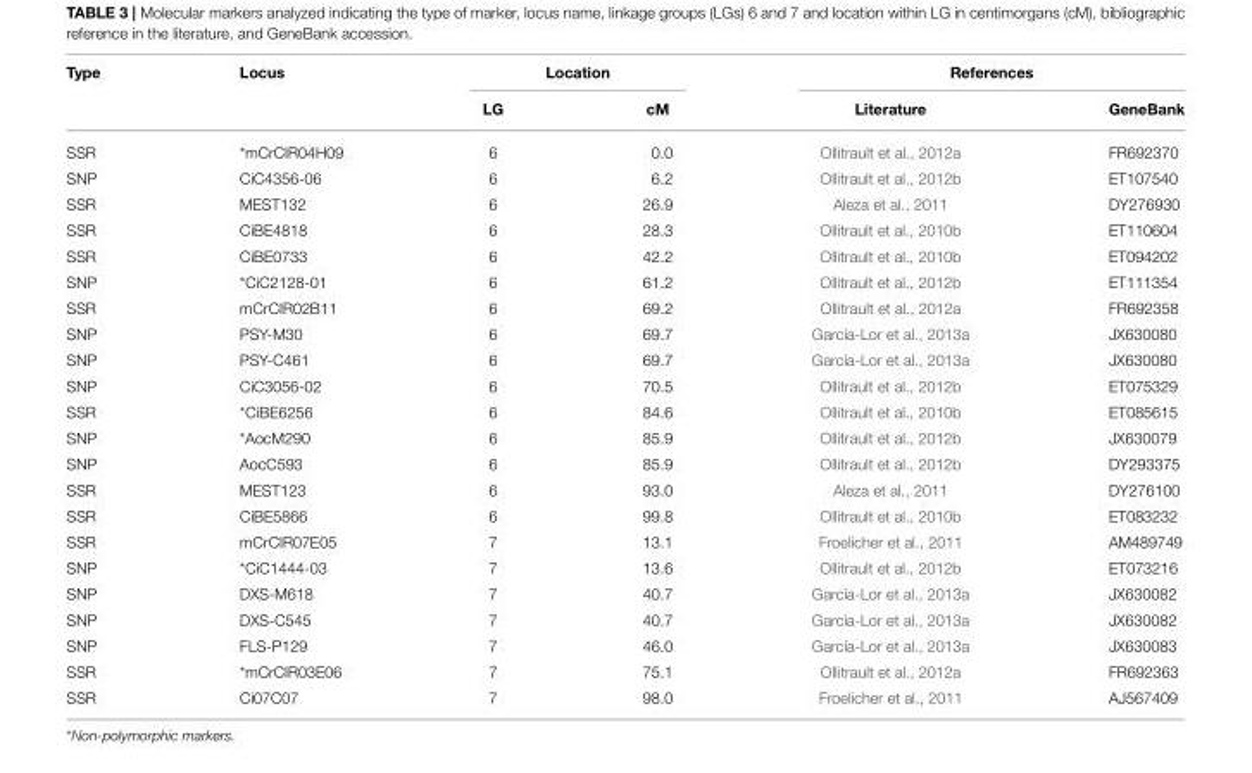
<table><thead><tr><td rowspan="2">Type</td><td rowspan="2">Locus</td><td colspan="2">Location</td><td colspan="2">References</td></tr><tr><td>LG</td><td>cM</td><td>Literature</td><td>GeneBank</td></tr></thead><tbody><tr><td>SSR</td><td>*mCrCIR04H09</td><td>6</td><td>0.0</td><td>Ollitrault et al., 2012a</td><td>FR692370</td></tr><tr><td>SNP</td><td>CiC4356-06</td><td>6</td><td>6.2</td><td>Ollitrault et al., 2012b</td><td>ET107540</td></tr><tr><td>SSR</td><td>MEST132</td><td>6</td><td>26.9</td><td>Aleza et al., 2011</td><td>DY276930</td></tr><tr><td>SSR</td><td>CiBE4818</td><td>6</td><td>28.3</td><td>Ollitrault et al., 2010b</td><td>ET110604</td></tr><tr><td>SSR</td><td>CiBE0733</td><td>6</td><td>42.2</td><td>Ollitrault et al., 2010b</td><td>ET094202</td></tr><tr><td>SNP</td><td>*CiC2128-01</td><td>6</td><td>61.2</td><td>Ollitrault et al., 2012b</td><td>ET111354</td></tr><tr><td>SSR</td><td>mCrCIR02B11</td><td>6</td><td>69.2</td><td>Ollitrault et al., 2012a</td><td>FR692358</td></tr><tr><td>SNP</td><td>PSY-M30</td><td>6</td><td>69.7</td><td>García-Lor et al., 2013a</td><td>JX630080</td></tr><tr><td>SNP</td><td>PSY-C461</td><td>6</td><td>69.7</td><td>García-Lor et al., 2013a</td><td>JX630080</td></tr><tr><td>SNP</td><td>CiC3056-02</td><td>6</td><td>70.5</td><td>Ollitrault et al., 2012b</td><td>ET075329</td></tr><tr><td>SSR</td><td>*CiBE6256</td><td>6</td><td>84.6</td><td>Ollitrault et al., 2010b</td><td>ET085615</td></tr><tr><td>SNP</td><td>*AocM290</td><td>6</td><td>85.9</td><td>Ollitrault et al., 2012b</td><td>JX630079</td></tr><tr><td>SNP</td><td>AocC593</td><td>6</td><td>85.9</td><td>Ollitrault et al., 2012b</td><td>DY293375</td></tr><tr><td>SSR</td><td>MEST123</td><td>6</td><td>93.0</td><td>Aleza et al., 2011</td><td>DY276100</td></tr><tr><td>SSR</td><td>CiBE5866</td><td>6</td><td>99.8</td><td>Ollitrault et al., 2010b</td><td>ET083232</td></tr><tr><td>SSR</td><td>mCrCIR07E05</td><td>7</td><td>13.1</td><td>Froelicher et al., 2011</td><td>AM489749</td></tr><tr><td>SNP</td><td>*CiC1444-03</td><td>7</td><td>13.6</td><td>Ollitrault et al., 2012b</td><td>ET073216</td></tr><tr><td>SNP</td><td>DXS-M618</td><td>7</td><td>40.7</td><td>García-Lor et al., 2013a</td><td>JX630082</td></tr><tr><td>SNP</td><td>DXS-C545</td><td>7</td><td>40.7</td><td>García-Lor et al., 2013a</td><td>JX630082</td></tr><tr><td>SNP</td><td>FLS-P129</td><td>7</td><td>46.0</td><td>García-Lor et al., 2013a</td><td>JX630083</td></tr><tr><td>SSR</td><td>*mCrCIR03E06</td><td>7</td><td>75.1</td><td>Ollitrault et al., 2012a</td><td>FR692363</td></tr><tr><td>SSR</td><td>Ci07C07</td><td>7</td><td>98.0</td><td>Froelicher et al., 2011</td><td>AJ567409</td></tr></tbody></table>